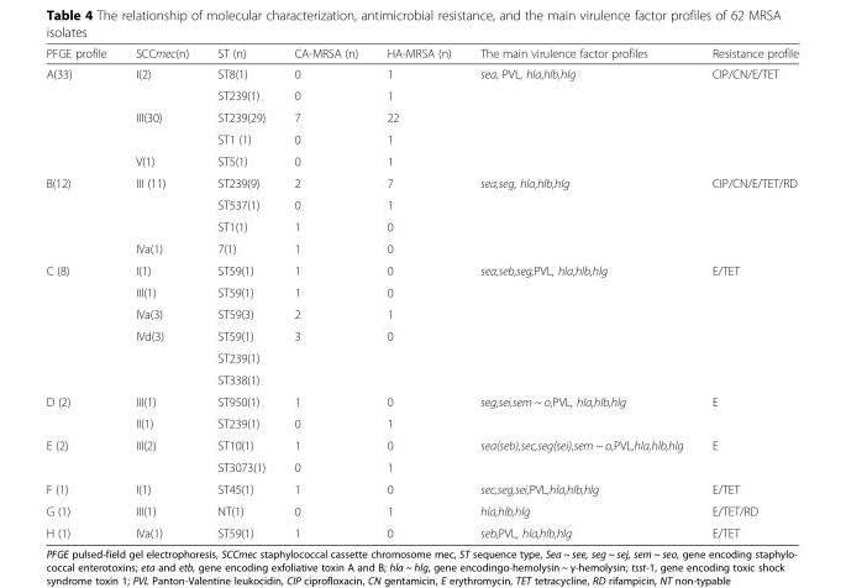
<table><thead><tr><td>PFGE profile</td><td>SCCmec(n)</td><td>ST (n)</td><td>CA-MRSA (n)</td><td>HA-MRSA (n)</td><td>The main virulence factor profiles</td><td>Resistance profile</td></tr></thead><tbody><tr><td rowspan="5">A(33)</td><td rowspan="2">I(2)</td><td>ST8(1)</td><td>0</td><td>1</td><td rowspan="5">sea, PVL, hla,hlb,hlg</td><td rowspan="5">CIP/CN/E/TET</td></tr><tr><td>ST239(1)</td><td>0</td><td>1</td></tr><tr><td rowspan="2">III(30)</td><td>ST239(29)</td><td>7</td><td>22</td></tr><tr><td>ST1 (1)</td><td>0</td><td>1</td></tr><tr><td>V(1)</td><td>ST5(1)</td><td>0</td><td>1</td></tr><tr><td rowspan="4">B(12)</td><td rowspan="3">III (11)</td><td>ST239(9)</td><td>2</td><td>7</td><td rowspan="4">sea,seg, hla,hlb,hlg</td><td rowspan="4">CIP/CN/E/TET/RD</td></tr><tr><td>ST537(1)</td><td>0</td><td>1</td></tr><tr><td>ST1(1)</td><td>1</td><td>0</td></tr><tr><td>IVa(1)</td><td>7(1)</td><td>1</td><td>0</td></tr><tr><td rowspan="6">C (8)</td><td>I(1)</td><td>ST59(1)</td><td>1</td><td>0</td><td rowspan="6">sea,seb,seg,PVL, hla,hlb,hlg</td><td rowspan="6">E/TET</td></tr><tr><td>III(1)</td><td>ST59(1)</td><td>1</td><td>0</td></tr><tr><td>IVa(3)</td><td>ST59(3)</td><td>2</td><td>1</td></tr><tr><td rowspan="3">IVd(3)</td><td>ST59(1)</td><td rowspan="3">3</td><td rowspan="3">0</td></tr><tr><td>ST239(1)</td></tr><tr><td>ST338(1)</td></tr><tr><td rowspan="2">D (2)</td><td>III(1)</td><td>ST950(1)</td><td>1</td><td>0</td><td rowspan="2">seg,sei,sem ~ o,PVL, hla,hlb,hlg</td><td rowspan="2">E</td></tr><tr><td>II(1)</td><td>ST239(1)</td><td>0</td><td>1</td></tr><tr><td rowspan="2">E (2)</td><td rowspan="2">III(2)</td><td>ST10(1)</td><td>1</td><td>0</td><td rowspan="2">sea(seb),sec,seg(sei),sem ~ o,PVL,hla,hlb,hlg</td><td rowspan="2">E</td></tr><tr><td>ST3073(1)</td><td>0</td><td>1</td></tr><tr><td>F (1)</td><td>I(1)</td><td>ST45(1)</td><td>1</td><td>0</td><td>sec,seg,sei,PVL,hla,hlb,hlg</td><td>E/TET</td></tr><tr><td>G (1)</td><td>III(1)</td><td>NT(1)</td><td>0</td><td>1</td><td>hla,hlb,hlg</td><td>E/TET/RD</td></tr><tr><td>H (1)</td><td>IVa(1)</td><td>ST59(1)</td><td>1</td><td>0</td><td>seb,PVL, hla,hlb,hlg</td><td>E/TET</td></tr></tbody></table>